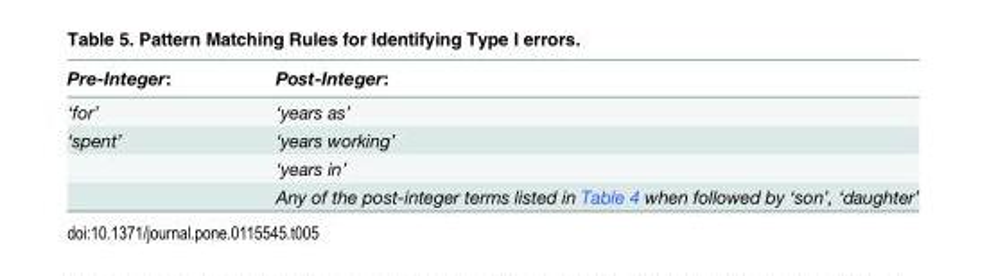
<table><thead><tr><td>Pre-Integer:</td><td>Post-Integer:</td></tr></thead><tbody><tr><td>‘for’</td><td>‘years as’</td></tr><tr><td rowspan="3">‘spent’</td><td>‘years working’</td></tr><tr><td>‘years in’</td></tr><tr><td>Any of the post-integer terms listed in Table 4 when followed by ‘son’, ‘daughter’</td></tr></tbody></table>